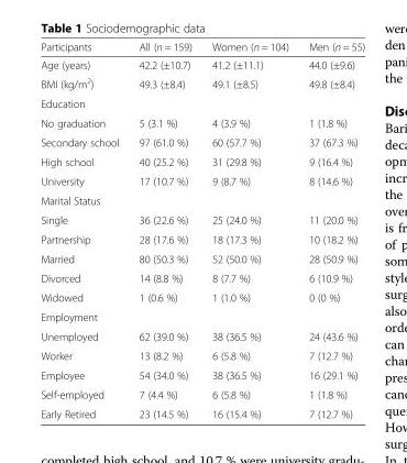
<table><thead><tr><td>Participants</td><td>All (n = 159)</td><td>Women (n = 104)</td><td>Men (n = 55)</td></tr></thead><tbody><tr><td>Age (years)</td><td>42.2 (±10.7)</td><td>41.2 (±11.1)</td><td>44.0 (±9.6)</td></tr><tr><td>BMI (kg/m<sup>2</sup>)</td><td>49.3 (±8.4)</td><td>49.1 (±8.5)</td><td>49.8 (±8.4)</td></tr><tr><td colspan="4">Education</td></tr><tr><td>No graduation</td><td>5 (3.1 %)</td><td>4 (3.9 %)</td><td>1 (1.8 %)</td></tr><tr><td>Secondary school</td><td>97 (61.0 %)</td><td>60 (57.7 %)</td><td>37 (67.3 %)</td></tr><tr><td>High school</td><td>40 (25.2 %)</td><td>31 (29.8 %)</td><td>9 (16.4 %)</td></tr><tr><td>University</td><td>17 (10.7 %)</td><td>9 (8.7 %)</td><td>8 (14.6 %)</td></tr><tr><td colspan="4">Marital Status</td></tr><tr><td>Single</td><td>36 (22.6 %)</td><td>25 (24.0 %)</td><td>11 (20.0 %)</td></tr><tr><td>Partnership</td><td>28 (17.6 %)</td><td>18 (17.3 %)</td><td>10 (18.2 %)</td></tr><tr><td>Married</td><td>80 (50.3 %)</td><td>52 (50.0 %)</td><td>28 (50.9 %)</td></tr><tr><td>Divorced</td><td>14 (8.8 %)</td><td>8 (7.7 %)</td><td>6 (10.9 %)</td></tr><tr><td>Widowed</td><td>1 (0.6 %)</td><td>1 (1.0 %)</td><td>0 (0 %)</td></tr><tr><td colspan="4">Employment</td></tr><tr><td>Unemployed</td><td>62 (39.0 %)</td><td>38 (36.5 %)</td><td>24 (43.6 %)</td></tr><tr><td>Worker</td><td>13 (8.2 %)</td><td>6 (5.8 %)</td><td>7 (12.7 %)</td></tr><tr><td>Employee</td><td>54 (34.0 %)</td><td>38 (36.5 %)</td><td>16 (29.1 %)</td></tr><tr><td>Self-employed</td><td>7 (4.4 %)</td><td>6 (5.8 %)</td><td>1 (1.8 %)</td></tr><tr><td>Early Retired</td><td>23 (14.5 %)</td><td>16 (15.4 %)</td><td>7 (12.7 %)</td></tr></tbody></table>